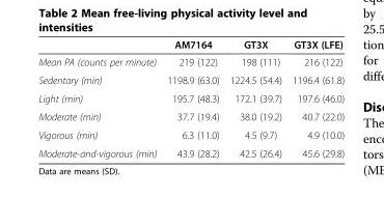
<table><thead><tr><td></td><td>AM7164</td><td>GT3X</td><td>GT3X (LFE)</td></tr></thead><tbody><tr><td>Mean PA (counts per minute)</td><td>219 (122)</td><td>198 (111)</td><td>216 (122)</td></tr><tr><td>Sedentary (min)</td><td>1198.9 (63.0)</td><td>1224.5 (54.4)</td><td>1196.4 (61.8)</td></tr><tr><td>Light (min)</td><td>195.7 (48.3)</td><td>172.1 (39.7)</td><td>197.6 (46.0)</td></tr><tr><td>Moderate (min)</td><td>37.7 (19.4)</td><td>38.0 (19.2)</td><td>40.7 (22.0)</td></tr><tr><td>Vigorous (min)</td><td>6.3 (11.0)</td><td>4.5 (9.7)</td><td>4.9 (10.0)</td></tr><tr><td>Moderate-and-vigorous (min)</td><td>43.9 (28.2)</td><td>42.5 (26.4)</td><td>45.6 (29.8)</td></tr></tbody></table>